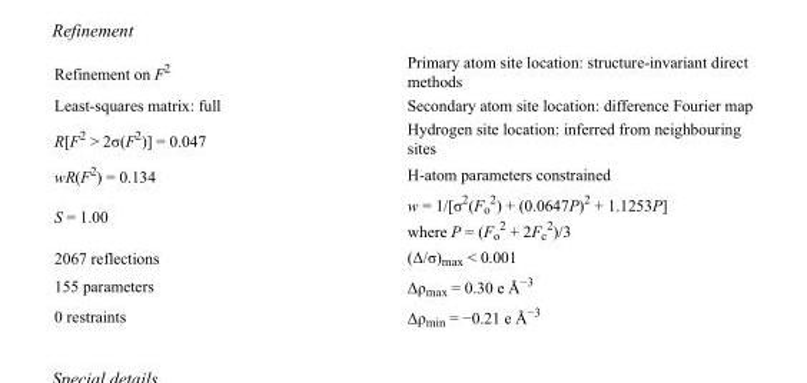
<table><tbody><tr><td>Refinement on F<sup>2</sup></td><td>Primary atom site location: structure-invariant direct methods</td></tr><tr><td>Least-squares matrix: full</td><td>Secondary atom site location: difference Fourier map</td></tr><tr><td>R[F<sup>2</sup> &gt; 2σ(F<sup>2</sup>)] = 0.047</td><td>Hydrogen site location: inferred from neighbouring sites</td></tr><tr><td>wR(F<sup>2</sup>) = 0.134</td><td>H-atom parameters constrained</td></tr><tr><td>S = 1.00</td><td>w = 1/[σ<sup>2</sup>(F<sub>o</sub> <sup>2</sup>) + (0.0647P)<sup>2</sup> + 1.1253P] where P = (F<sub>o</sub> <sup>2</sup> + 2F<sub>c</sub> <sup>2</sup>)/3</td></tr><tr><td>2067 reflections</td><td>(Δ/σ)<sub>max</sub> &lt; 0.001</td></tr><tr><td>155 parameters</td><td>Δρ<sub>max</sub> = 0.30 e Å<sup>−3</sup></td></tr><tr><td>0 restraints</td><td>Δρ<sub>min</sub> = −0.21 e Å<sup>−3</sup></td></tr></tbody></table>